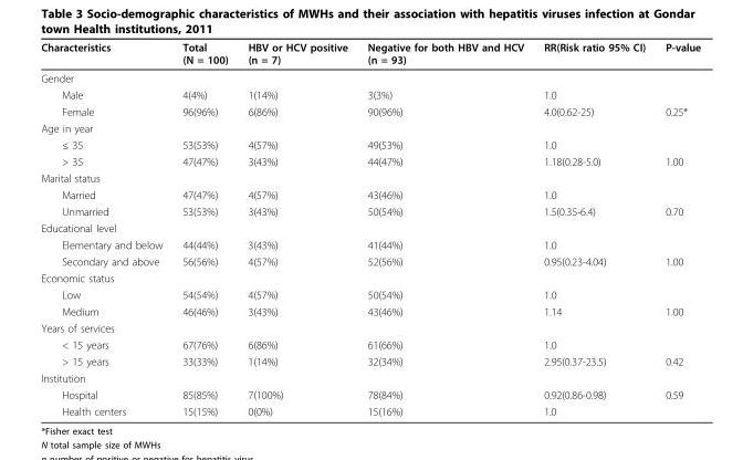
<table><thead><tr><td>Characteristics</td><td>Total (N = 100)</td><td>HBV or HCV positive (n = 7)</td><td>Negative for both HBV and HCV (n = 93)</td><td>RR(Risk ratio 95% CI)</td><td>P-value</td></tr></thead><tbody><tr><td colspan="6">Gender</td></tr><tr><td>Male</td><td>4(4%)</td><td>1(14%)</td><td>3(3%)</td><td>1.0</td><td></td></tr><tr><td>Female</td><td>96(96%)</td><td>6(86%)</td><td>90(96%)</td><td>4.0(0.62-25)</td><td>0.25*</td></tr><tr><td colspan="6">Age in year</td></tr><tr><td>≤ 35</td><td>53(53%)</td><td>4(57%)</td><td>49(53%)</td><td>1.0</td><td></td></tr><tr><td>&gt; 35</td><td>47(47%)</td><td>3(43%)</td><td>44(47%)</td><td>1.18(0.28-5.0)</td><td>1.00</td></tr><tr><td colspan="6">Marital status</td></tr><tr><td>Married</td><td>47(47%)</td><td>4(57%)</td><td>43(46%)</td><td>1.0</td><td></td></tr><tr><td>Unmarried</td><td>53(53%)</td><td>3(43%)</td><td>50(54%)</td><td>1.5(0.35-6.4)</td><td>0.70</td></tr><tr><td colspan="6">Educational level</td></tr><tr><td>Elementary and below</td><td>44(44%)</td><td>3(43%)</td><td>41(44%)</td><td>1.0</td><td></td></tr><tr><td>Secondary and above</td><td>56(56%)</td><td>4(57%)</td><td>52(56%)</td><td>0.95(0.23-4.04)</td><td>1.00</td></tr><tr><td colspan="6">Economic status</td></tr><tr><td>Low</td><td>54(54%)</td><td>4(57%)</td><td>50(54%)</td><td>1.0</td><td></td></tr><tr><td>Medium</td><td>46(46%)</td><td>3(43%)</td><td>43(46%)</td><td>1.14</td><td>1.00</td></tr><tr><td colspan="6">Years of services</td></tr><tr><td>&lt; 15 years</td><td>67(76%)</td><td>6(86%)</td><td>61(66%)</td><td>1.0</td><td></td></tr><tr><td>&gt; 15 years</td><td>33(33%)</td><td>1(14%)</td><td>32(34%)</td><td>2.95(0.37-23.5)</td><td>0.42</td></tr><tr><td colspan="6">Institution</td></tr><tr><td>Hospital</td><td>85(85%)</td><td>7(100%)</td><td>78(84%)</td><td>0.92(0.86-0.98)</td><td>0.59</td></tr><tr><td>Health centers</td><td>15(15%)</td><td>0(0%)</td><td>15(16%)</td><td>1.0</td><td></td></tr></tbody></table>